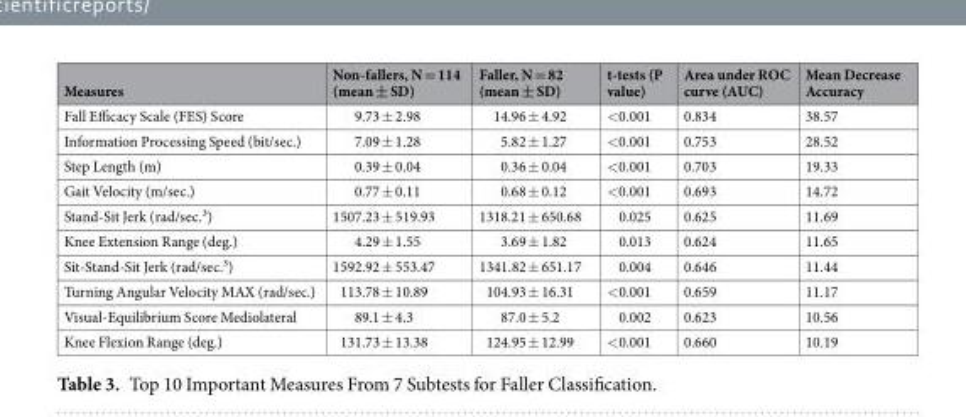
<table><thead><tr><td>Measures</td><td>Non-fallers, N = 114 (mean ± SD)</td><td>Faller, N = 82 (mean ± SD)</td><td>t-tests (P value)</td><td>Area under ROC curve (AUC)</td><td>Mean Decrease Accuracy</td></tr></thead><tbody><tr><td>Fall Efficacy Scale (FES) Score</td><td>9.73 ± 2.98</td><td>14.96 ± 4.92</td><td>&lt;0.001</td><td>0.834</td><td>38.57</td></tr><tr><td>Information Processing Speed (bit/sec.)</td><td>7.09 ± 1.28</td><td>5.82 ± 1.27</td><td>&lt;0.001</td><td>0.753</td><td>28.52</td></tr><tr><td>Step Length (m)</td><td>0.39 ± 0.04</td><td>0.36 ± 0.04</td><td>&lt;0.001</td><td>0.703</td><td>19.33</td></tr><tr><td>Gait Velocity (m/sec.)</td><td>0.77 ± 0.11</td><td>0.68 ± 0.12</td><td>&lt;0.001</td><td>0.693</td><td>14.72</td></tr><tr><td>Stand-Sit Jerk (rad/sec.³)</td><td>1507.23 ± 519.93</td><td>1318.21 ± 650.68</td><td>0.025</td><td>0.625</td><td>11.69</td></tr><tr><td>Knee Extension Range (deg.)</td><td>4.29 ± 1.55</td><td>3.69 ± 1.82</td><td>0.013</td><td>0.624</td><td>11.65</td></tr><tr><td>Sit-Stand-Sit Jerk (rad/sec.³)</td><td>1592.92 ± 553.47</td><td>1341.82 ± 651.17</td><td>0.004</td><td>0.646</td><td>11.44</td></tr><tr><td>Turning Angular Velocity MAX (rad/sec.)</td><td>113.78 ± 10.89</td><td>104.93 ± 16.31</td><td>&lt;0.001</td><td>0.659</td><td>11.17</td></tr><tr><td>Visual-Equilibrium Score Mediolateral</td><td>89.1 ± 4.3</td><td>87.0 ± 5.2</td><td>0.002</td><td>0.623</td><td>10.56</td></tr><tr><td>Knee Flexion Range (deg.)</td><td>131.73 ± 13.38</td><td>124.95 ± 12.99</td><td>&lt;0.001</td><td>0.660</td><td>10.19</td></tr></tbody></table>